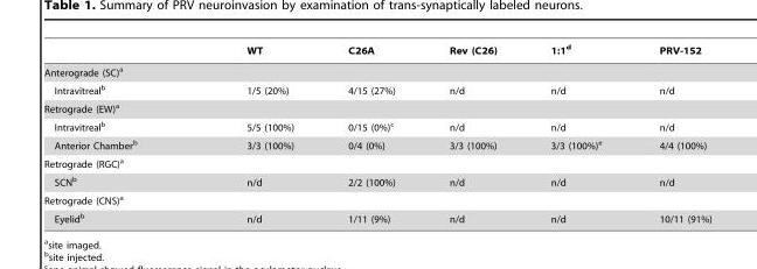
<table><thead><tr><td></td><td>WT</td><td>C26A</td><td>Rev (C26)</td><td>1:1d</td><td>PRV-152</td></tr></thead><tbody><tr><td colspan="6">Anterograde (SC)<sup>a</sup></td></tr><tr><td>Intravitreal<sup>b</sup></td><td>1/5 (20%)</td><td>4/15 (27%)</td><td>n/d</td><td>n/d</td><td>n/d</td></tr><tr><td colspan="6">Retrograde (EW)<sup>a</sup></td></tr><tr><td>Intravitreal<sup>b</sup></td><td>5/5 (100%)</td><td>0/15 (0%)<sup>c</sup></td><td>n/d</td><td>n/d</td><td>n/d</td></tr><tr><td>Anterior Chamber<sup>b</sup></td><td>3/3 (100%)</td><td>0/4 (0%)</td><td>3/3 (100%)</td><td>3/3 (100%)<sup>e</sup></td><td>4/4 (100%)</td></tr><tr><td colspan="6">Retrograde (RGC)<sup>a</sup></td></tr><tr><td>SCN<sup>b</sup></td><td>n/d</td><td>2/2 (100%)</td><td>n/d</td><td>n/d</td><td>n/d</td></tr><tr><td colspan="6">Retrograde (CNS)<sup>a</sup></td></tr><tr><td>Eyelid<sup>b</sup></td><td>n/d</td><td>1/11 (9%)</td><td>n/d</td><td>n/d</td><td>10/11 (91%)</td></tr></tbody></table>